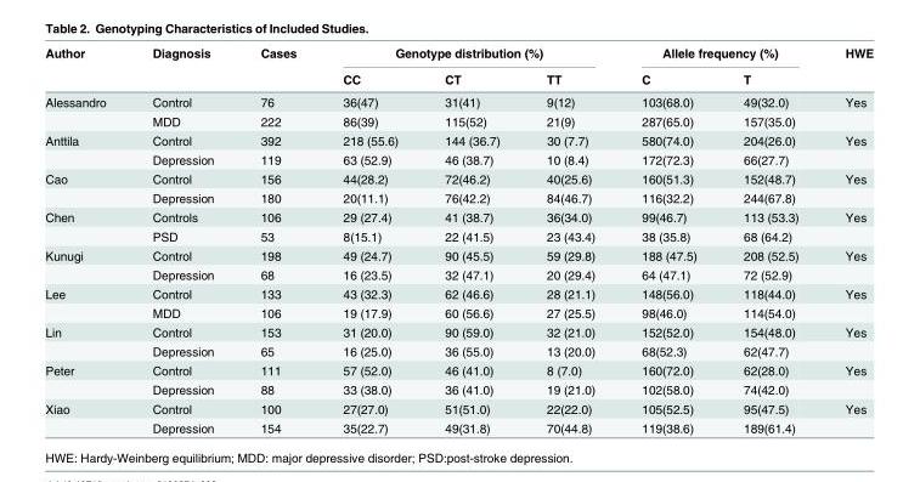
<table><thead><tr><td rowspan="2">Author</td><td rowspan="2">Diagnosis</td><td rowspan="2">Cases</td><td colspan="3">Genotype distribution (%)</td><td colspan="2">Allele frequency (%)</td><td rowspan="2">HWE</td></tr><tr><td>CC</td><td>CT</td><td>TT</td><td>C</td><td>T</td></tr></thead><tbody><tr><td rowspan="2">Alessandro</td><td>Control</td><td>76</td><td>36(47)</td><td>31(41)</td><td>9(12)</td><td>103(68.0)</td><td>49(32.0)</td><td>Yes</td></tr><tr><td>MDD</td><td>222</td><td>86(39)</td><td>115(52)</td><td>21(9)</td><td>287(65.0)</td><td>157(35.0)</td><td></td></tr><tr><td rowspan="2">Anttila</td><td>Control</td><td>392</td><td>218 (55.6)</td><td>144 (36.7)</td><td>30 (7.7)</td><td>580(74.0)</td><td>204(26.0)</td><td>Yes</td></tr><tr><td>Depression</td><td>119</td><td>63 (52.9)</td><td>46 (38.7)</td><td>10 (8.4)</td><td>172(72.3)</td><td>66(27.7)</td><td></td></tr><tr><td rowspan="2">Cao</td><td>Control</td><td>156</td><td>44(28.2)</td><td>72(46.2)</td><td>40(25.6)</td><td>160(51.3)</td><td>152(48.7)</td><td>Yes</td></tr><tr><td>Depression</td><td>180</td><td>20(11.1)</td><td>76(42.2)</td><td>84(46.7)</td><td>116(32.2)</td><td>244(67.8)</td><td></td></tr><tr><td rowspan="2">Chen</td><td>Controls</td><td>106</td><td>29 (27.4)</td><td>41 (38.7)</td><td>36(34.0)</td><td>99(46.7)</td><td>113 (53.3)</td><td>Yes</td></tr><tr><td>PSD</td><td>53</td><td>8(15.1)</td><td>22 (41.5)</td><td>23 (43.4)</td><td>38 (35.8)</td><td>68 (64.2)</td><td></td></tr><tr><td rowspan="2">Kunugi</td><td>Control</td><td>198</td><td>49 (24.7)</td><td>90 (45.5)</td><td>59 (29.8)</td><td>188 (47.5)</td><td>208 (52.5)</td><td>Yes</td></tr><tr><td>Depression</td><td>68</td><td>16 (23.5)</td><td>32 (47.1)</td><td>20 (29.4)</td><td>64 (47.1)</td><td>72 (52.9)</td><td></td></tr><tr><td rowspan="2">Lee</td><td>Control</td><td>133</td><td>43 (32.3)</td><td>62 (46.6)</td><td>28 (21.1)</td><td>148(56.0)</td><td>118(44.0)</td><td>Yes</td></tr><tr><td>MDD</td><td>106</td><td>19 (17.9)</td><td>60 (56.6)</td><td>27 (25.5)</td><td>98(46.0)</td><td>114(54.0)</td><td></td></tr><tr><td rowspan="2">Lin</td><td>Control</td><td>153</td><td>31 (20.0)</td><td>90 (59.0)</td><td>32 (21.0)</td><td>152(52.0)</td><td>154(48.0)</td><td>Yes</td></tr><tr><td>Depression</td><td>65</td><td>16 (25.0)</td><td>36 (55.0)</td><td>13 (20.0)</td><td>68(52.3)</td><td>62(47.7)</td><td></td></tr><tr><td rowspan="2">Peter</td><td>Control</td><td>111</td><td>57 (52.0)</td><td>46 (41.0)</td><td>8 (7.0)</td><td>160(72.0)</td><td>62(28.0)</td><td>Yes</td></tr><tr><td>Depression</td><td>88</td><td>33 (38.0)</td><td>36 (41.0)</td><td>19 (21.0)</td><td>102(58.0)</td><td>74(42.0)</td><td></td></tr><tr><td rowspan="2">Xiao</td><td>Control</td><td>100</td><td>27(27.0)</td><td>51(51.0)</td><td>22(22.0)</td><td>105(52.5)</td><td>95(47.5)</td><td>Yes</td></tr><tr><td>Depression</td><td>154</td><td>35(22.7)</td><td>49(31.8)</td><td>70(44.8)</td><td>119(38.6)</td><td>189(61.4)</td><td></td></tr></tbody></table>